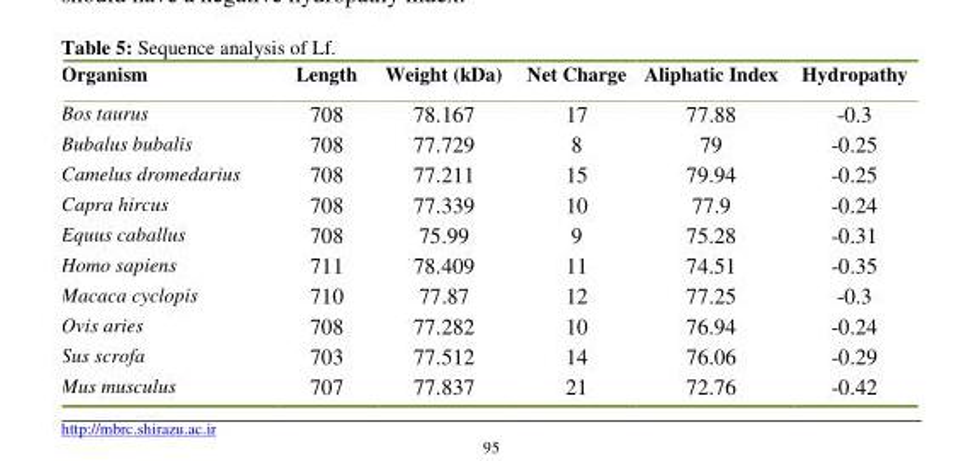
<table><thead><tr><td>Organism</td><td>Length</td><td>Weight (kDa)</td><td>Net Charge</td><td>Aliphatic Index</td><td>Hydropathy</td></tr></thead><tbody><tr><td>Bos taurus</td><td>708</td><td>78.167</td><td>17</td><td>77.88</td><td>-0.3</td></tr><tr><td>Bubalus bubalis</td><td>708</td><td>77.729</td><td>8</td><td>79</td><td>-0.25</td></tr><tr><td>Camelus dromedarius</td><td>708</td><td>77.211</td><td>15</td><td>79.94</td><td>-0.25</td></tr><tr><td>Capra hircus</td><td>708</td><td>77.339</td><td>10</td><td>77.9</td><td>-0.24</td></tr><tr><td>Equus caballus</td><td>708</td><td>75.99</td><td>9</td><td>75.28</td><td>-0.31</td></tr><tr><td>Homo sapiens</td><td>711</td><td>78.409</td><td>11</td><td>74.51</td><td>-0.35</td></tr><tr><td>Macaca cyclopis</td><td>710</td><td>77.87</td><td>12</td><td>77.25</td><td>-0.3</td></tr><tr><td>Ovis aries</td><td>708</td><td>77.282</td><td>10</td><td>76.94</td><td>-0.24</td></tr><tr><td>Sus scrofa</td><td>703</td><td>77.512</td><td>14</td><td>76.06</td><td>-0.29</td></tr><tr><td>Mus musculus</td><td>707</td><td>77.837</td><td>21</td><td>72.76</td><td>-0.42</td></tr></tbody></table>